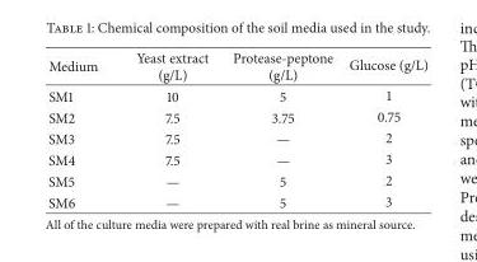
<table><thead><tr><td>Medium</td><td>Yeast extract (g/L)</td><td>Protease-peptone (g/L)</td><td>Glucose (g/L)</td></tr></thead><tbody><tr><td>SM1</td><td>10</td><td>5</td><td>1</td></tr><tr><td>SM2</td><td>7.5</td><td>3.75</td><td>0.75</td></tr><tr><td>SM3</td><td>7.5</td><td>—</td><td>2</td></tr><tr><td>SM4</td><td>7.5</td><td>—</td><td>3</td></tr><tr><td>SM5</td><td>—</td><td>5</td><td>2</td></tr><tr><td>SM6</td><td>—</td><td>5</td><td>3</td></tr></tbody></table>